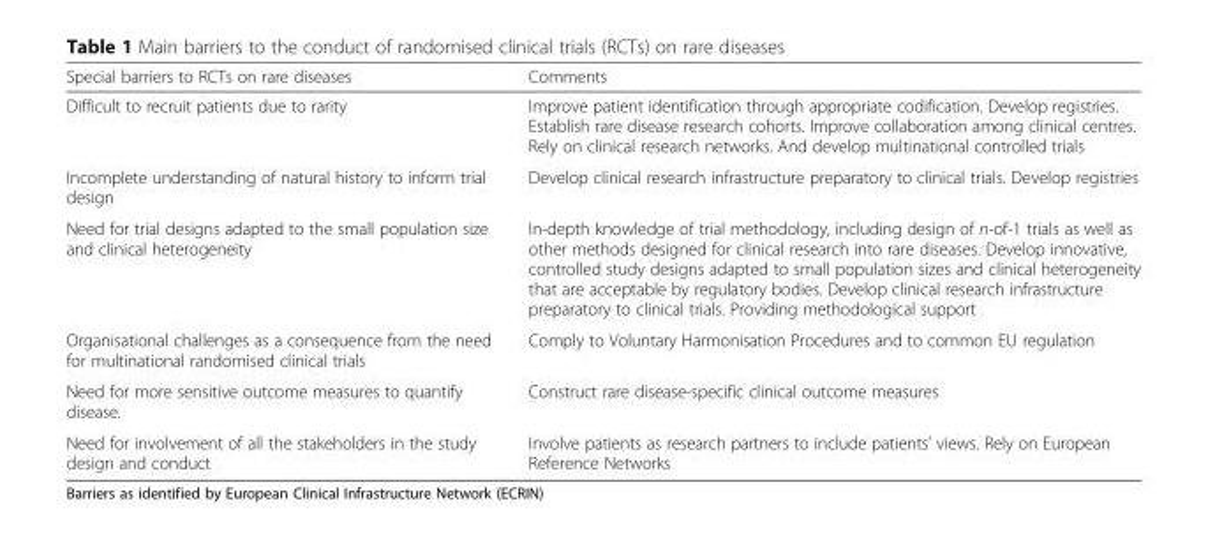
<table><thead><tr><td>Special barriers to RCTs on rare diseases</td><td>Comments</td></tr></thead><tbody><tr><td>Difficult to recruit patients due to rarity</td><td>Improve patient identification through appropriate codification. Develop registries. Establish rare disease research cohorts. Improve collaboration among clinical centres. Rely on clinical research networks. And develop multinational controlled trials</td></tr><tr><td>Incomplete understanding of natural history to inform trial design</td><td>Develop clinical research infrastructure preparatory to clinical trials. Develop registries</td></tr><tr><td>Need for trial designs adapted to the small population size and clinical heterogeneity</td><td>In-depth knowledge of trial methodology, including design of n-of-1 trials as well as other methods designed for clinical research into rare diseases. Develop innovative, controlled study designs adapted to small population sizes and clinical heterogeneity that are acceptable by regulatory bodies. Develop clinical research infrastructure preparatory to clinical trials. Providing methodological support</td></tr><tr><td>Organisational challenges as a consequence from the need for multinational randomised clinical trials</td><td>Comply to Voluntary Harmonisation Procedures and to common EU regulation</td></tr><tr><td>Need for more sensitive outcome measures to quantify disease.</td><td>Construct rare disease-specific clinical outcome measures</td></tr><tr><td>Need for involvement of all the stakeholders in the study design and conduct</td><td>Involve patients as research partners to include patients’ views. Rely on European Reference Networks</td></tr></tbody></table>